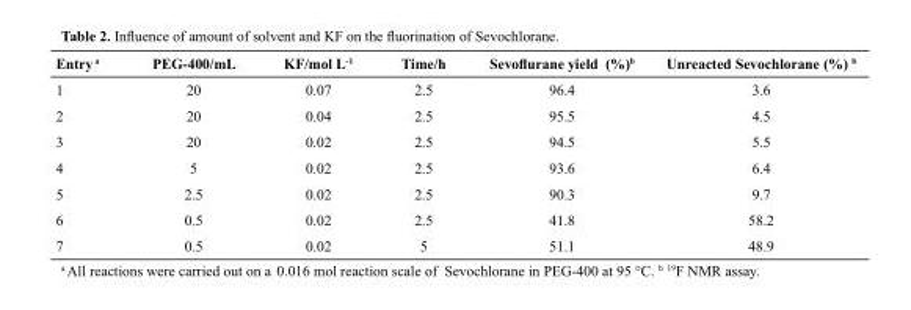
<table><thead><tr><td>Entry a</td><td>PEG-400/mL</td><td>KF/mol L<sup>-1</sup></td><td>Time/h</td><td>Sevoflurane yield (%)b</td><td>Unreacted Sevochlorane (%) b</td></tr></thead><tbody><tr><td>1</td><td>20</td><td>0.07</td><td>2.5</td><td>96.4</td><td>3.6</td></tr><tr><td>2</td><td>20</td><td>0.04</td><td>2.5</td><td>95.5</td><td>4.5</td></tr><tr><td>3</td><td>20</td><td>0.02</td><td>2.5</td><td>94.5</td><td>5.5</td></tr><tr><td>4</td><td>5</td><td>0.02</td><td>2.5</td><td>93.6</td><td>6.4</td></tr><tr><td>5</td><td>2.5</td><td>0.02</td><td>2.5</td><td>90.3</td><td>9.7</td></tr><tr><td>6</td><td>0.5</td><td>0.02</td><td>2.5</td><td>41.8</td><td>58.2</td></tr><tr><td>7</td><td>0.5</td><td>0.02</td><td>5</td><td>51.1</td><td>48.9</td></tr></tbody></table>